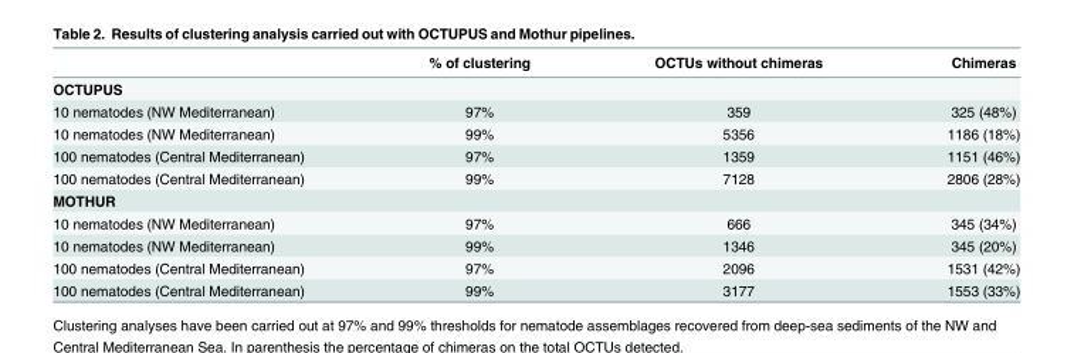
<table><thead><tr><td></td><td>% of clustering</td><td>OCTUs without chimeras</td><td>Chimeras</td></tr></thead><tbody><tr><td colspan="4">OCTUPUS</td></tr><tr><td>10 nematodes (NW Mediterranean)</td><td>97%</td><td>359</td><td>325 (48%)</td></tr><tr><td>10 nematodes (NW Mediterranean)</td><td>99%</td><td>5356</td><td>1186 (18%)</td></tr><tr><td>100 nematodes (Central Mediterranean)</td><td>97%</td><td>1359</td><td>1151 (46%)</td></tr><tr><td>100 nematodes (Central Mediterranean)</td><td>99%</td><td>7128</td><td>2806 (28%)</td></tr><tr><td colspan="4">MOTHUR</td></tr><tr><td>10 nematodes (NW Mediterranean)</td><td>97%</td><td>666</td><td>345 (34%)</td></tr><tr><td>10 nematodes (NW Mediterranean)</td><td>99%</td><td>1346</td><td>345 (20%)</td></tr><tr><td>100 nematodes (Central Mediterranean)</td><td>97%</td><td>2096</td><td>1531 (42%)</td></tr><tr><td>100 nematodes (Central Mediterranean)</td><td>99%</td><td>3177</td><td>1553 (33%)</td></tr></tbody></table>